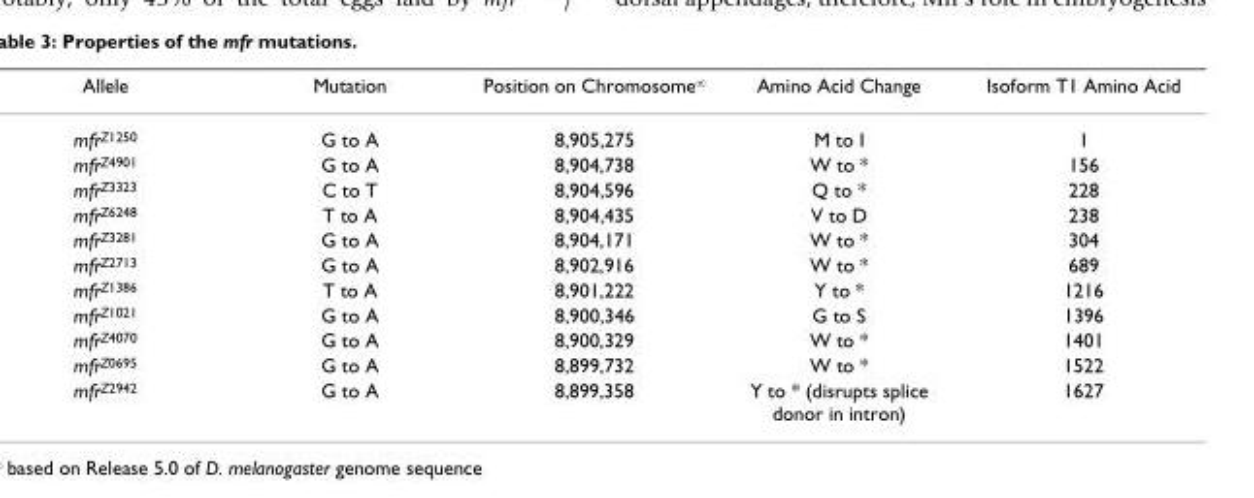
<table><thead><tr><td>Allele</td><td>Mutation</td><td>Position on Chromosome<sup>∞</sup></td><td>Amino Acid Change</td><td>Isoform T1 Amino Acid</td></tr></thead><tbody><tr><td>mfr<sup>Z1250</sup></td><td>G to A</td><td>8,905,275</td><td>M to I</td><td>1</td></tr><tr><td>mfr<sup>Z4901</sup></td><td>G to A</td><td>8,904,738</td><td>W to *</td><td>156</td></tr><tr><td>mfr<sup>Z3323</sup></td><td>C to T</td><td>8,904,596</td><td>Q to *</td><td>228</td></tr><tr><td>mfr<sup>Z6248</sup></td><td>T to A</td><td>8,904,435</td><td>V to D</td><td>238</td></tr><tr><td>mfr<sup>Z3281</sup></td><td>G to A</td><td>8,904,171</td><td>W to *</td><td>304</td></tr><tr><td>mfr<sup>Z2713</sup></td><td>G to A</td><td>8,902,916</td><td>W to *</td><td>689</td></tr><tr><td>mfr<sup>Z1386</sup></td><td>T to A</td><td>8,901,222</td><td>Y to *</td><td>1216</td></tr><tr><td>mfr<sup>Z1021</sup></td><td>G to A</td><td>8,900,346</td><td>G to S</td><td>1396</td></tr><tr><td>mfr<sup>Z4070</sup></td><td>G to A</td><td>8,900,329</td><td>W to *</td><td>1401</td></tr><tr><td>mfr<sup>Z0695</sup></td><td>G to A</td><td>8,899,732</td><td>W to *</td><td>1522</td></tr><tr><td>mfr<sup>Z2942</sup></td><td>G to A</td><td>8,899,358</td><td>Y to * (disrupts splice donor in intron)</td><td>1627</td></tr></tbody></table>